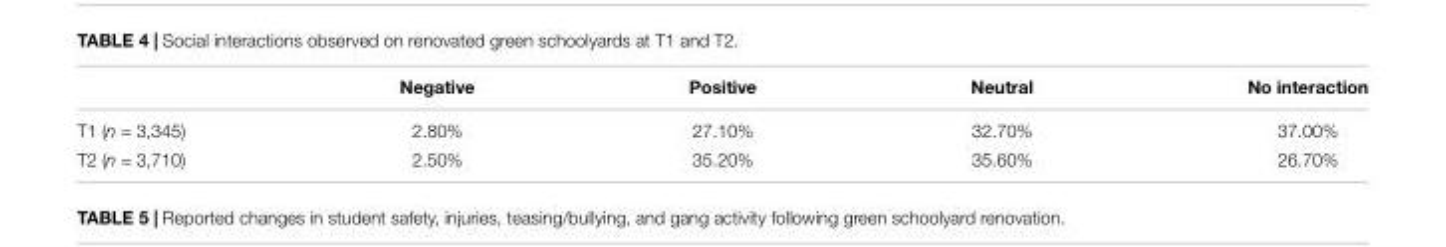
<table><thead><tr><td></td><td>Negative</td><td>Positive</td><td>Neutral</td><td>No interaction</td></tr></thead><tbody><tr><td>T1 (n = 3,345)</td><td>2.80%</td><td>27.10%</td><td>32.70%</td><td>37.00%</td></tr><tr><td>T2 (n = 3,710)</td><td>2.50%</td><td>35.20%</td><td>35.60%</td><td>26.70%</td></tr></tbody></table>